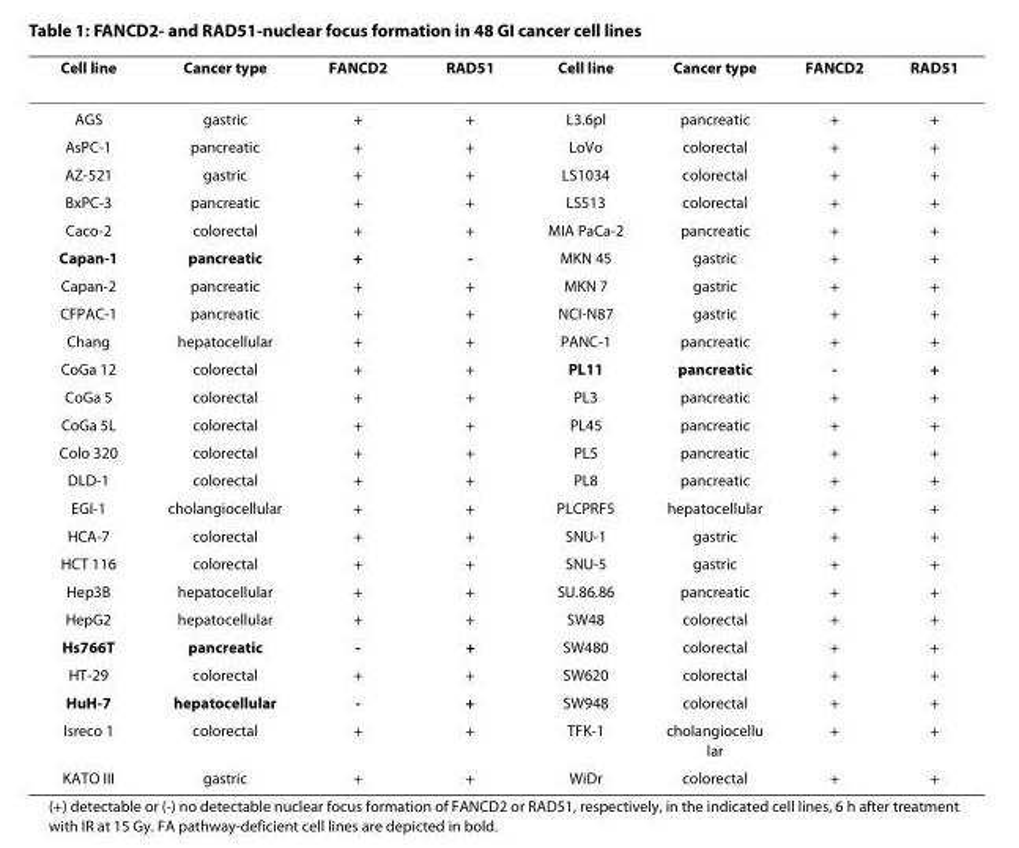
<table><thead><tr><td>Cell line</td><td>Cancer type</td><td>FANCD2</td><td>RAD51</td><td>Cell line</td><td>Cancer type</td><td>FANCD2</td><td>RAD51</td></tr></thead><tbody><tr><td>AGS</td><td>gastric</td><td>+</td><td>+</td><td>L3.6pl</td><td>pancreatic</td><td>+</td><td>+</td></tr><tr><td>AsPC-1</td><td>pancreatic</td><td>+</td><td>+</td><td>LoVo</td><td>colorectal</td><td>+</td><td>+</td></tr><tr><td>AZ-521</td><td>gastric</td><td>+</td><td>+</td><td>LS1034</td><td>colorectal</td><td>+</td><td>+</td></tr><tr><td>BxPC-3</td><td>pancreatic</td><td>+</td><td>+</td><td>LS513</td><td>colorectal</td><td>+</td><td>+</td></tr><tr><td>Caco-2</td><td>colorectal</td><td>+</td><td>+</td><td>MIA PaCa-2</td><td>pancreatic</td><td>+</td><td>+</td></tr><tr><td>Capan-1</td><td>pancreatic</td><td>+</td><td>-</td><td>MKN 45</td><td>gastric</td><td>+</td><td>+</td></tr><tr><td>Capan-2</td><td>pancreatic</td><td>+</td><td>+</td><td>MKN 7</td><td>gastric</td><td>+</td><td>+</td></tr><tr><td>CFPAC-1</td><td>pancreatic</td><td>+</td><td>+</td><td>NCI-N87</td><td>gastric</td><td>+</td><td>+</td></tr><tr><td>Chang</td><td>hepatocellular</td><td>+</td><td>+</td><td>PANC-1</td><td>pancreatic</td><td>+</td><td>+</td></tr><tr><td>CoGa 12</td><td>colorectal</td><td>+</td><td>+</td><td>PL11</td><td>pancreatic</td><td>-</td><td>+</td></tr><tr><td>CoGa 5</td><td>colorectal</td><td>+</td><td>+</td><td>PL3</td><td>pancreatic</td><td>+</td><td>+</td></tr><tr><td>CoGa 5L</td><td>colorectal</td><td>+</td><td>+</td><td>PL45</td><td>pancreatic</td><td>+</td><td>+</td></tr><tr><td>Colo 320</td><td>colorectal</td><td>+</td><td>+</td><td>PL5</td><td>pancreatic</td><td>+</td><td>+</td></tr><tr><td>DLD-1</td><td>colorectal</td><td>+</td><td>+</td><td>PL8</td><td>pancreatic</td><td>+</td><td>+</td></tr><tr><td>EGI-1</td><td>cholangiocellular</td><td>+</td><td>+</td><td>PLCPRF5</td><td>hepatocellular</td><td>+</td><td>+</td></tr><tr><td>HCA-7</td><td>colorectal</td><td>+</td><td>+</td><td>SNU-1</td><td>gastric</td><td>+</td><td>+</td></tr><tr><td>HCT 116</td><td>colorectal</td><td>+</td><td>+</td><td>SNU-5</td><td>gastric</td><td>+</td><td>+</td></tr><tr><td>Hep3B</td><td>hepatocellular</td><td>+</td><td>+</td><td>SU.86.86</td><td>pancreatic</td><td>+</td><td>+</td></tr><tr><td>HepG2</td><td>hepatocellular</td><td>+</td><td>+</td><td>SW48</td><td>colorectal</td><td>+</td><td>+</td></tr><tr><td>Hs766T</td><td>pancreatic</td><td>-</td><td>+</td><td>SW480</td><td>colorectal</td><td>+</td><td>+</td></tr><tr><td>HT-29</td><td>colorectal</td><td>+</td><td>+</td><td>SW620</td><td>colorectal</td><td>+</td><td>+</td></tr><tr><td>HuH-7</td><td>hepatocellular</td><td>-</td><td>+</td><td>SW948</td><td>colorectal</td><td>+</td><td>+</td></tr><tr><td>Isreco 1</td><td>colorectal</td><td>+</td><td>+</td><td>TFK-1</td><td>cholangiocellu lar</td><td>+</td><td>+</td></tr><tr><td>KATO III</td><td>gastric</td><td>+</td><td>+</td><td>WiDr</td><td>colorectal</td><td>+</td><td>+</td></tr></tbody></table>